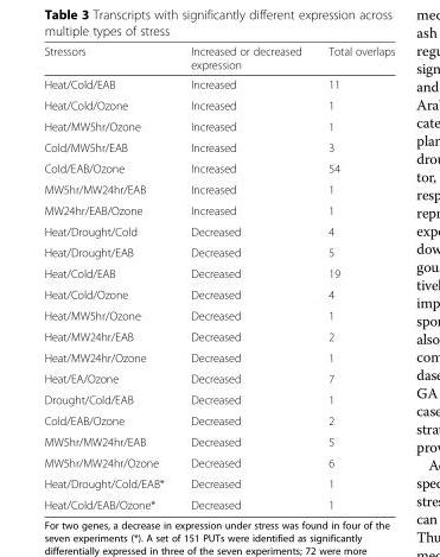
<table><thead><tr><td>Stressors</td><td>Increased or decreased expression</td><td>Total overlaps</td></tr></thead><tbody><tr><td>Heat/Cold/EAB</td><td>Increased</td><td>11</td></tr><tr><td>Heat/Cold/Ozone</td><td>Increased</td><td>1</td></tr><tr><td>Heat/MW5hr/Ozone</td><td>Increased</td><td>1</td></tr><tr><td>Cold/MW5hr/EAB</td><td>Increased</td><td>3</td></tr><tr><td>Cold/EAB/Ozone</td><td>Increased</td><td>54</td></tr><tr><td>MW5hr/MW24hr/EAB</td><td>Increased</td><td>1</td></tr><tr><td>MW24hr/EAB/Ozone</td><td>Increased</td><td>1</td></tr><tr><td>Heat/Drought/Cold</td><td>Decreased</td><td>4</td></tr><tr><td>Heat/Drought/EAB</td><td>Decreased</td><td>5</td></tr><tr><td>Heat/Cold/EAB</td><td>Decreased</td><td>19</td></tr><tr><td>Heat/Cold/Ozone</td><td>Decreased</td><td>4</td></tr><tr><td>Heat/MW5hr/Ozone</td><td>Decreased</td><td>1</td></tr><tr><td>Heat/MW24hr/EAB</td><td>Decreased</td><td>2</td></tr><tr><td>Heat/MW24hr/Ozone</td><td>Decreased</td><td>1</td></tr><tr><td>Heat/EA/Ozone</td><td>Decreased</td><td>7</td></tr><tr><td>Drought/Cold/EAB</td><td>Decreased</td><td>1</td></tr><tr><td>Cold/EAB/Ozone</td><td>Decreased</td><td>2</td></tr><tr><td>MW5hr/MW24hr/EAB</td><td>Decreased</td><td>5</td></tr><tr><td>MW5hr/MW24hr/Ozone</td><td>Decreased</td><td>6</td></tr><tr><td>Heat/Drought/Cold/EAB*</td><td>Decreased</td><td>1</td></tr><tr><td>Heat/Cold/EAB/Ozone*</td><td>Decreased</td><td>1</td></tr></tbody></table>